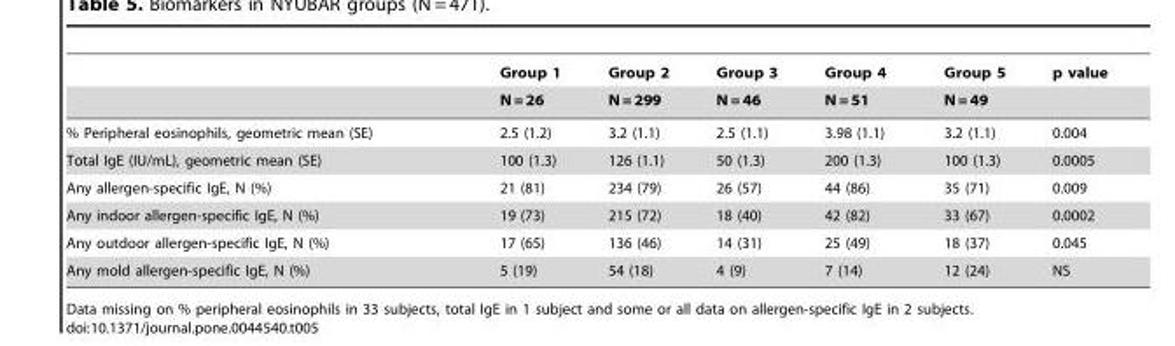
<table><thead><tr><td rowspan="2"></td><td rowspan="2">Group 1 N = 26</td><td rowspan="2">Group 2 N = 299</td><td rowspan="2">Group 3 N = 46</td><td rowspan="2">Group 4 N = 51</td><td rowspan="2">Group 5 N = 49</td><td rowspan="2">p value</td></tr><tr></tr></thead><tbody><tr><td>% Peripheral eosinophils, geometric mean (SE)</td><td>2.5 (1.2)</td><td>3.2 (1.1)</td><td>2.5 (1.1)</td><td>3.98 (1.1)</td><td>3.2 (1.1)</td><td>0.004</td></tr><tr><td>Total IgE (IU/mL), geometric mean (SE)</td><td>100 (1.3)</td><td>126 (1.1)</td><td>50 (1.3)</td><td>200 (1.3)</td><td>100 (1.3)</td><td>0.0005</td></tr><tr><td>Any allergen-specific IgE, N (%)</td><td>21 (81)</td><td>234 (79)</td><td>26 (57)</td><td>44 (86)</td><td>35 (71)</td><td>0.009</td></tr><tr><td>Any indoor allergen-specific IgE, N (%)</td><td>19 (73)</td><td>215 (72)</td><td>18 (40)</td><td>42 (82)</td><td>33 (67)</td><td>0.0002</td></tr><tr><td>Any outdoor allergen-specific IgE, N (%)</td><td>17 (65)</td><td>136 (46)</td><td>14 (31)</td><td>25 (49)</td><td>18 (37)</td><td>0.045</td></tr><tr><td>Any mold allergen-specific IgE, N (%)</td><td>5 (19)</td><td>54 (18)</td><td>4 (9)</td><td>7 (14)</td><td>12 (24)</td><td>NS</td></tr></tbody></table>